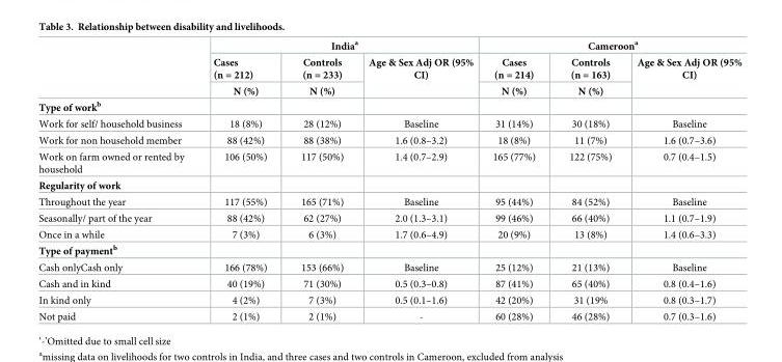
<table><thead><tr><td rowspan="3"></td><td colspan="3">India<sup>a</sup></td><td colspan="3">Cameroon<sup>a</sup></td></tr><tr><td rowspan="2">Cases (n = 212) N (%)</td><td rowspan="2">Controls (n = 233) N (%)</td><td rowspan="2">Age &amp; Sex Adj OR (95% CI)</td><td rowspan="2">Cases (n = 214) N (%)</td><td rowspan="2">Controls (n = 163) N (%)</td><td rowspan="2">Age &amp; Sex Adj OR (95% CI)</td></tr><tr></tr></thead><tbody><tr><td colspan="7">Type of work<sup>b</sup></td></tr><tr><td>Work for self/ household business</td><td>18 (8%)</td><td>28 (12%)</td><td>Baseline</td><td>31 (14%)</td><td>30 (18%)</td><td>Baseline</td></tr><tr><td>Work for non household member</td><td>88 (42%)</td><td>88 (38%)</td><td>1.6 (0.8–3.2)</td><td>18 (8%)</td><td>11 (7%)</td><td>1.6 (0.7–3.6)</td></tr><tr><td>Work on farm owned or rented by household</td><td>106 (50%)</td><td>117 (50%)</td><td>1.4 (0.7–2.9)</td><td>165 (77%)</td><td>122 (75%)</td><td>0.7 (0.4–1.5)</td></tr><tr><td colspan="7">Regularity of work</td></tr><tr><td>Throughout the year</td><td>117 (55%)</td><td>165 (71%)</td><td>Baseline</td><td>95 (44%)</td><td>84 (52%)</td><td>Baseline</td></tr><tr><td>Seasonally/ part of the year</td><td>88 (42%)</td><td>62 (27%)</td><td>2.0 (1.3–3.1)</td><td>99 (46%)</td><td>66 (40%)</td><td>1.1 (0.7–1.9)</td></tr><tr><td>Once in a while</td><td>7 (3%)</td><td>6 (3%)</td><td>1.7 (0.6–4.9)</td><td>20 (9%)</td><td>13 (8%)</td><td>1.4 (0.6–3.3)</td></tr><tr><td colspan="7">Type of payment<sup>b</sup></td></tr><tr><td>Cash onlyCash only</td><td>166 (78%)</td><td>153 (66%)</td><td>Baseline</td><td>25 (12%)</td><td>21 (13%)</td><td>Baseline</td></tr><tr><td>Cash and in kind</td><td>40 (19%)</td><td>71 (30%)</td><td>0.5 (0.3–0.8)</td><td>87 (41%)</td><td>65 (40%)</td><td>0.8 (0.4–1.6)</td></tr><tr><td>In kind only</td><td>4 (2%)</td><td>7 (3%)</td><td>0.5 (0.1–1.6)</td><td>42 (20%)</td><td>31 (19%</td><td>0.8 (0.3–1.7)</td></tr><tr><td>Not paid</td><td>2 (1%)</td><td>2 (1%)</td><td>-</td><td>60 (28%)</td><td>46 (28%)</td><td>0.7 (0.3–1.6)</td></tr></tbody></table>